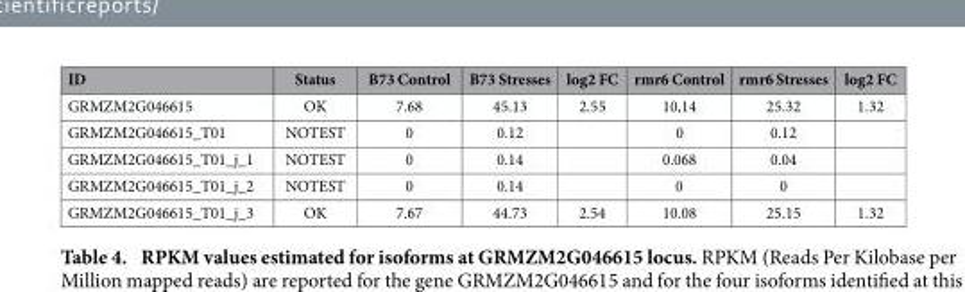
<table><thead><tr><td>ID</td><td>Status</td><td>B73 Control</td><td>B73 Stresses</td><td>log2 FC</td><td>rmr6 Control</td><td>rmr6 Stresses</td><td>log2 FC</td></tr></thead><tbody><tr><td>GRMZM2G046615</td><td>OK</td><td>7.68</td><td>45.13</td><td>2.55</td><td>10,14</td><td>25.32</td><td>1.32</td></tr><tr><td>GRMZM2G046615_T01</td><td>NOTEST</td><td>0</td><td>0.12</td><td></td><td>0</td><td>0.12</td><td></td></tr><tr><td>GRMZM2G046615_T01_j_1</td><td>NOTEST</td><td>0</td><td>0.14</td><td></td><td>0.068</td><td>0.04</td><td></td></tr><tr><td>GRMZM2G046615_T01_j_2</td><td>NOTEST</td><td>0</td><td>0.14</td><td></td><td>0</td><td>0</td><td></td></tr><tr><td>GRMZM2G046615_T01_j_3</td><td>OK</td><td>7.67</td><td>44.73</td><td>2.54</td><td>10.08</td><td>25.15</td><td>1.32</td></tr></tbody></table>